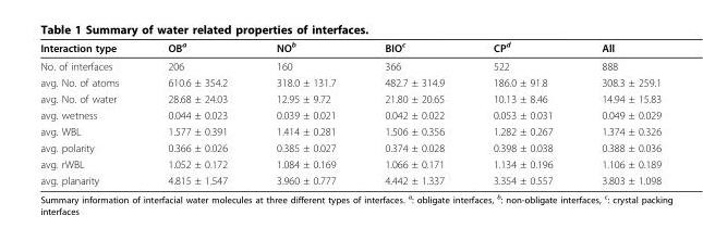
<table><thead><tr><td>Interaction type</td><td>OB<sup>a</sup></td><td>NO<sup>b</sup></td><td>BIO<sup>c</sup></td><td>CP<sup>d</sup></td><td>All</td></tr></thead><tbody><tr><td>No. of interfaces</td><td>206</td><td>160</td><td>366</td><td>522</td><td>888</td></tr><tr><td>avg. No. of atoms</td><td>610.6 ± 354.2</td><td>318.0 ± 131.7</td><td>482.7 ± 314.9</td><td>186.0 ± 91.8</td><td>308.3 ± 259.1</td></tr><tr><td>avg. No. of water</td><td>28.68 ± 24.03</td><td>12.95 ± 9.72</td><td>21.80 ± 20.65</td><td>10.13 ± 8.46</td><td>14.94 ± 15.83</td></tr><tr><td>avg. wetness</td><td>0.044 ± 0.023</td><td>0.039 ± 0.021</td><td>0.042 ± 0.022</td><td>0.053 ± 0.031</td><td>0.049 ± 0.029</td></tr><tr><td>avg. WBL</td><td>1.577 ± 0.391</td><td>1.414 ± 0.281</td><td>1.506 ± 0.356</td><td>1.282 ± 0.267</td><td>1.374 ± 0.326</td></tr><tr><td>avg. polarity</td><td>0.366 ± 0.026</td><td>0.385 ± 0.027</td><td>0.374 ± 0.028</td><td>0.398 ± 0.038</td><td>0.388 ± 0.036</td></tr><tr><td>avg. rWBL</td><td>1.052 ± 0.172</td><td>1.084 ± 0.169</td><td>1.066 ± 0.171</td><td>1.134 ± 0.196</td><td>1.106 ± 0.189</td></tr><tr><td>avg. planarity</td><td>4.815 ± 1.547</td><td>3.960 ± 0.777</td><td>4.442 ± 1.337</td><td>3.354 ± 0.557</td><td>3.803 ± 1.098</td></tr></tbody></table>